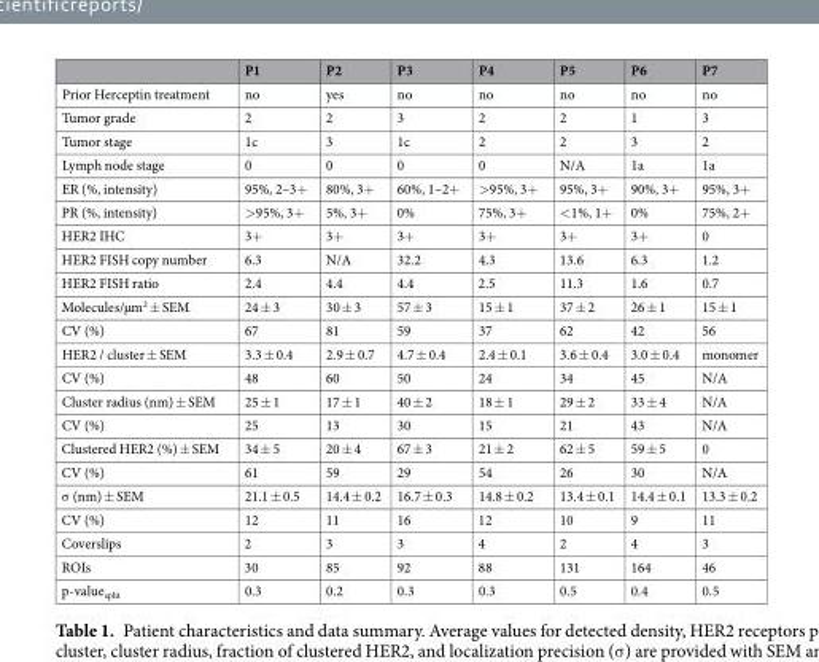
<table><thead><tr><td></td><td>P1</td><td>P2</td><td>P3</td><td>P4</td><td>P5</td><td>P6</td><td>P7</td></tr></thead><tbody><tr><td>Prior Herceptin treatment</td><td>no</td><td>yes</td><td>no</td><td>no</td><td>no</td><td>no</td><td>no</td></tr><tr><td>Tumor grade</td><td>2</td><td>2</td><td>3</td><td>2</td><td>2</td><td>1</td><td>3</td></tr><tr><td>Tumor stage</td><td>1c</td><td>3</td><td>1c</td><td>2</td><td>2</td><td>3</td><td>2</td></tr><tr><td>Lymph node stage</td><td>0</td><td>0</td><td>0</td><td>0</td><td>N/A</td><td>1a</td><td>1a</td></tr><tr><td>ER (%, intensity)</td><td>95%, 2–3+</td><td>80%, 3+</td><td>60%, 1–2+</td><td>&gt;95%, 3+</td><td>95%, 3+</td><td>90%, 3+</td><td>95%, 3+</td></tr><tr><td>PR (%, intensity)</td><td>&gt;95%, 3+</td><td>5%, 3+</td><td>0%</td><td>75%, 3+</td><td>&lt;1%, 1+</td><td>0%</td><td>75%, 2+</td></tr><tr><td>HER2 IHC</td><td>3+</td><td>3+</td><td>3+</td><td>3+</td><td>3+</td><td>3+</td><td>0</td></tr><tr><td>HER2 FISH copy number</td><td>6.3</td><td>N/A</td><td>32.2</td><td>4.3</td><td>13.6</td><td>6.3</td><td>1.2</td></tr><tr><td>HER2 FISH ratio</td><td>2.4</td><td>4.4</td><td>4.4</td><td>2.5</td><td>11.3</td><td>1.6</td><td>0.7</td></tr><tr><td>Molecules/µm<sup>2</sup> ± SEM</td><td>24 ± 3</td><td>30 ± 3</td><td>57 ± 3</td><td>15 ± 1</td><td>37 ± 2</td><td>26 ± 1</td><td>15 ± 1</td></tr><tr><td>CV (%)</td><td>67</td><td>81</td><td>59</td><td>37</td><td>62</td><td>42</td><td>56</td></tr><tr><td>HER2 / cluster ± SEM</td><td>3.3 ± 0.4</td><td>2.9 ± 0.7</td><td>4.7 ± 0.4</td><td>2.4 ± 0.1</td><td>3.6 ± 0.4</td><td>3.0 ± 0.4</td><td>monomer</td></tr><tr><td>CV (%)</td><td>48</td><td>60</td><td>50</td><td>24</td><td>34</td><td>45</td><td>N/A</td></tr><tr><td>Cluster radius (nm) ± SEM</td><td>25 ± 1</td><td>17 ± 1</td><td>40 ± 2</td><td>18 ± 1</td><td>29 ± 2</td><td>33 ± 4</td><td>N/A</td></tr><tr><td>CV (%)</td><td>25</td><td>13</td><td>30</td><td>15</td><td>21</td><td>43</td><td>N/A</td></tr><tr><td>Clustered HER2 (%) ± SEM</td><td>34 ± 5</td><td>20 ± 4</td><td>67 ± 3</td><td>21 ± 2</td><td>62 ± 5</td><td>59 ± 5</td><td>0</td></tr><tr><td>CV (%)</td><td>61</td><td>59</td><td>29</td><td>54</td><td>26</td><td>30</td><td>N/A</td></tr><tr><td>σ (nm) ± SEM</td><td>21.1 ± 0.5</td><td>14.4 ± 0.2</td><td>16.7 ± 0.3</td><td>14.8 ± 0.2</td><td>13.4 ± 0.1</td><td>14.4 ± 0.1</td><td>13.3 ± 0.2</td></tr><tr><td>CV (%)</td><td>12</td><td>11</td><td>16</td><td>12</td><td>10</td><td>9</td><td>11</td></tr><tr><td>Coverslips</td><td>2</td><td>3</td><td>3</td><td>4</td><td>2</td><td>4</td><td>3</td></tr><tr><td>ROIs</td><td>30</td><td>85</td><td>92</td><td>88</td><td>131</td><td>164</td><td>46</td></tr><tr><td>p-value<sub>split</sub></td><td>0.3</td><td>0.2</td><td>0.3</td><td>0.3</td><td>0.5</td><td>0.4</td><td>0.5</td></tr></tbody></table>